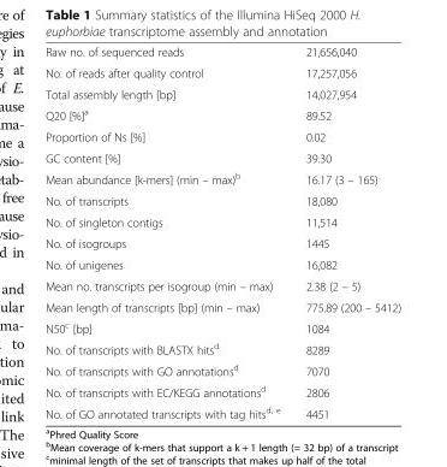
<table><tbody><tr><td>Raw no. of sequenced reads</td><td>21,656,040</td></tr><tr><td>No. of reads after quality control</td><td>17,257,056</td></tr><tr><td>Total assembly length [bp]</td><td>14,027,954</td></tr><tr><td>Q20 [%]<sup>a</sup></td><td>89.52</td></tr><tr><td>Proportion of Ns [%]</td><td>0.02</td></tr><tr><td>GC content [%]</td><td>39.30</td></tr><tr><td>Mean abundance [k-mers] (min – max)<sup>b</sup></td><td>16.17 (3 – 165)</td></tr><tr><td>No. of transcripts</td><td>18,080</td></tr><tr><td>No. of singleton contigs</td><td>11,514</td></tr><tr><td>No. of isogroups</td><td>1445</td></tr><tr><td>No. of unigenes</td><td>16,082</td></tr><tr><td>Mean no. transcripts per isogroup (min – max)</td><td>2.38 (2 – 5)</td></tr><tr><td>Mean length of transcripts [bp] (min – max)</td><td>775.89 (200 – 5412)</td></tr><tr><td>N50<sup>c</sup> [bp]</td><td>1084</td></tr><tr><td>No. of transcripts with BLASTX hits<sup>d</sup></td><td>8289</td></tr><tr><td>No. of transcripts with GO annotations<sup>d</sup></td><td>7070</td></tr><tr><td>No. of transcripts with EC/KEGG annotations<sup>d</sup></td><td>2806</td></tr><tr><td>No. of GO annotated transcripts with tag hits<sup>d, e</sup></td><td>4451</td></tr></tbody></table>